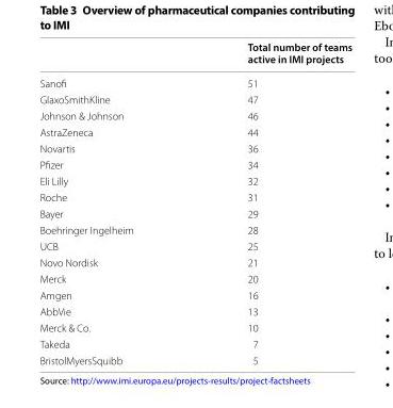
<table><thead><tr><td></td><td>Total number of teams active in IMI projects</td></tr></thead><tbody><tr><td>Sanofi</td><td>51</td></tr><tr><td>GlaxoSmithKline</td><td>47</td></tr><tr><td>Johnson &amp; Johnson</td><td>46</td></tr><tr><td>AstraZeneca</td><td>44</td></tr><tr><td>Novartis</td><td>36</td></tr><tr><td>Pfizer</td><td>34</td></tr><tr><td>Eli Lilly</td><td>32</td></tr><tr><td>Roche</td><td>31</td></tr><tr><td>Bayer</td><td>29</td></tr><tr><td>Boehringer Ingelheim</td><td>28</td></tr><tr><td>UCB</td><td>25</td></tr><tr><td>Novo Nordisk</td><td>21</td></tr><tr><td>Merck</td><td>20</td></tr><tr><td>Amgen</td><td>16</td></tr><tr><td>AbbVie</td><td>13</td></tr><tr><td>Merck &amp; Co.</td><td>10</td></tr><tr><td>Takeda</td><td>7</td></tr><tr><td>BristolMyersSquibb</td><td>5</td></tr></tbody></table>